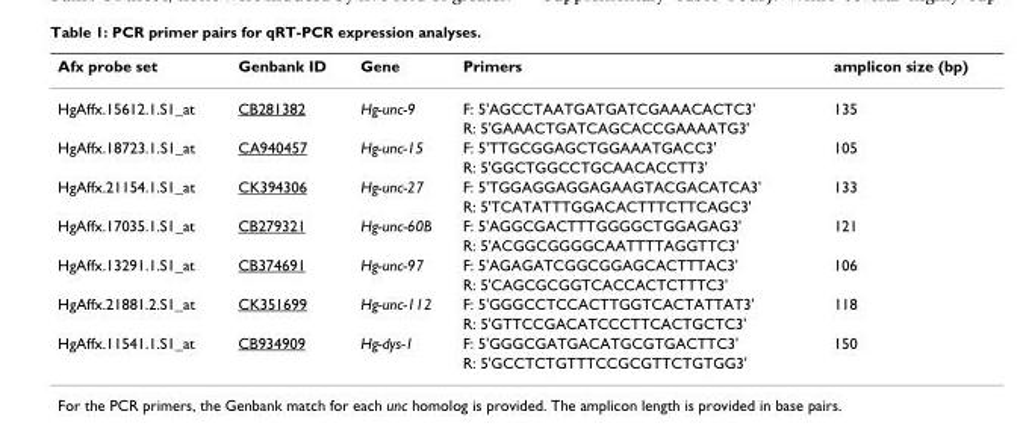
<table><thead><tr><td>Afx probe set</td><td>Genbank ID</td><td>Gene</td><td>Primers</td><td>amplicon size (bp)</td></tr></thead><tbody><tr><td rowspan="2">HgAffx.15612.1.S1_at</td><td>CB281382</td><td>Hg-unc-9</td><td>F: 5&#x27;AGCCTAATGATGATCGAAACACTC3&#x27;</td><td>135</td></tr><tr><td></td><td></td><td>R: 5&#x27;GAAACTGATCAGCACCGAAAATG3&#x27;</td><td></td></tr><tr><td rowspan="2">HgAffx.18723.1.S1_at</td><td>CA940457</td><td>Hg-unc-15</td><td>F: 5&#x27;TTGCGGAGCTGGAAATGACC3&#x27;</td><td>105</td></tr><tr><td></td><td></td><td>R: 5&#x27;GGCTGGCCTGCAACACCTT3&#x27;</td><td></td></tr><tr><td rowspan="2">HgAffx.21154.1.S1_at</td><td>CK394306</td><td>Hg-unc-27</td><td>F: 5&#x27;TGGAGGAGGAGAAGTACGACATCA3&#x27;</td><td>133</td></tr><tr><td></td><td></td><td>R: 5&#x27;TCATATTTGGACACTTTCTTCAGC3&#x27;</td><td></td></tr><tr><td rowspan="2">HgAffx.17035.1.S1_at</td><td>CB279321</td><td>Hg-unc-60B</td><td>F: 5&#x27;AGGCGACTTTGGGGCTGGAGAG3&#x27;</td><td>121</td></tr><tr><td></td><td></td><td>R: 5&#x27;ACGGCGGGGCAATTTTAGGTTC3&#x27;</td><td></td></tr><tr><td rowspan="2">HgAffx.13291.1.S1_at</td><td>CB374691</td><td>Hg-unc-97</td><td>F: 5&#x27;AGAGATCGGCGGAGCACTTTAC3&#x27;</td><td>106</td></tr><tr><td></td><td></td><td>R: 5&#x27;CAGCGCGGTCACCACTCTTTC3&#x27;</td><td></td></tr><tr><td rowspan="2">HgAffx.21881.2.S1_at</td><td>CK351699</td><td>Hg-unc-112</td><td>F: 5&#x27;GGGCCTCCACTTGGTCACTATTAT3&#x27;</td><td>118</td></tr><tr><td></td><td></td><td>R: 5&#x27;GTTCCGACATCCCTTCACTGCTC3&#x27;</td><td></td></tr><tr><td rowspan="2">HgAffx.11541.1.S1_at</td><td>CB934909</td><td>Hg-dys-1</td><td>F: 5&#x27;GGGCGATGACATGCGTGACTTC3&#x27;</td><td>150</td></tr><tr><td></td><td></td><td>R: 5&#x27;GCCTCTGTTTCCGCGTTCTGTGG3&#x27;</td><td></td></tr></tbody></table>